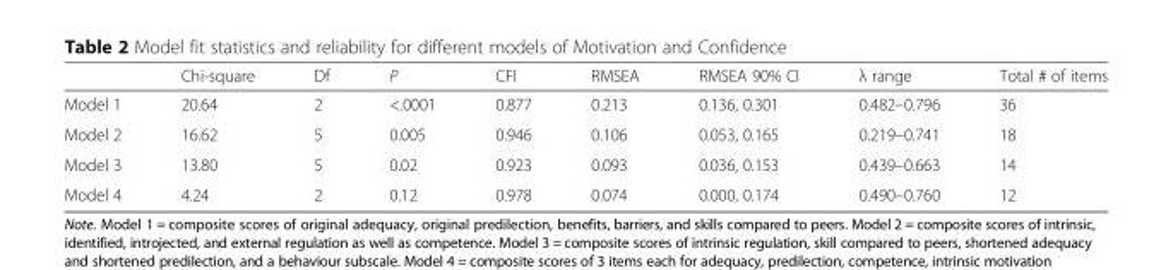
<table><thead><tr><td></td><td>Chi-square</td><td>Df</td><td>P</td><td>CFI</td><td>RMSEA</td><td>RMSEA 90% CI</td><td>λ range</td><td>Total # of items</td></tr></thead><tbody><tr><td>Model 1</td><td>20.64</td><td>2</td><td>&lt;.0001</td><td>0.877</td><td>0.213</td><td>0.136, 0.301</td><td>0.482–0.796</td><td>36</td></tr><tr><td>Model 2</td><td>16.62</td><td>5</td><td>0.005</td><td>0.946</td><td>0.106</td><td>0.053, 0.165</td><td>0.219–0.741</td><td>18</td></tr><tr><td>Model 3</td><td>13.80</td><td>5</td><td>0.02</td><td>0.923</td><td>0.093</td><td>0.036, 0.153</td><td>0.439–0.663</td><td>14</td></tr><tr><td>Model 4</td><td>4.24</td><td>2</td><td>0.12</td><td>0.978</td><td>0.074</td><td>0.000, 0.174</td><td>0.490–0.760</td><td>12</td></tr></tbody></table>